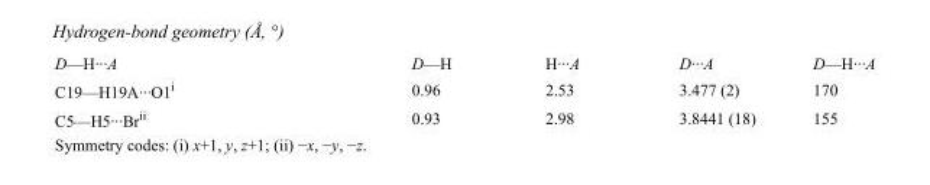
<table><tbody><tr><td>D—H···A</td><td>D—H</td><td>H···A</td><td>D···A</td><td>D—H···A</td></tr><tr><td>C19—H19A···O1<sup>i</sup></td><td>0.96</td><td>2.53</td><td>3.477 (2)</td><td>170</td></tr><tr><td>C5—H5···Br<sup>ii</sup></td><td>0.93</td><td>2.98</td><td>3.8441 (18)</td><td>155</td></tr></tbody></table>